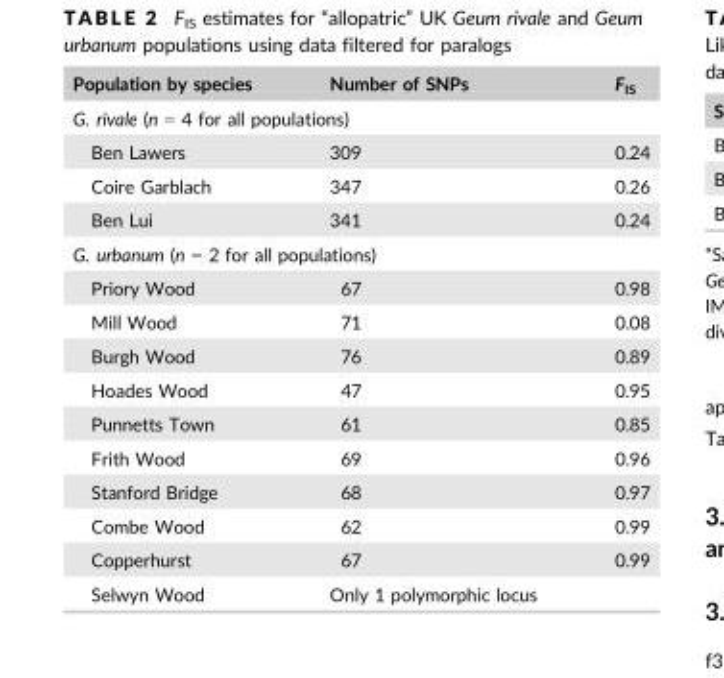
<table><thead><tr><td>Population by species</td><td>Number of SNPs</td><td>F<sub>IS</sub></td></tr></thead><tbody><tr><td colspan="3">G. rivale (n = 4 for all populations)</td></tr><tr><td>Ben Lawers</td><td>309</td><td>0.24</td></tr><tr><td>Coire Garblach</td><td>347</td><td>0.26</td></tr><tr><td>Ben Lui</td><td>341</td><td>0.24</td></tr><tr><td colspan="3">G. urbanum (n = 2 for all populations)</td></tr><tr><td>Priory Wood</td><td>67</td><td>0.98</td></tr><tr><td>Mill Wood</td><td>71</td><td>0.08</td></tr><tr><td>Burgh Wood</td><td>76</td><td>0.89</td></tr><tr><td>Hoades Wood</td><td>47</td><td>0.95</td></tr><tr><td>Punnetts Town</td><td>61</td><td>0.85</td></tr><tr><td>Frith Wood</td><td>69</td><td>0.96</td></tr><tr><td>Stanford Bridge</td><td>68</td><td>0.97</td></tr><tr><td>Combe Wood</td><td>62</td><td>0.99</td></tr><tr><td>Copperhurst</td><td>67</td><td>0.99</td></tr><tr><td>Selwyn Wood</td><td>Only 1 polymorphic locus</td><td></td></tr></tbody></table>